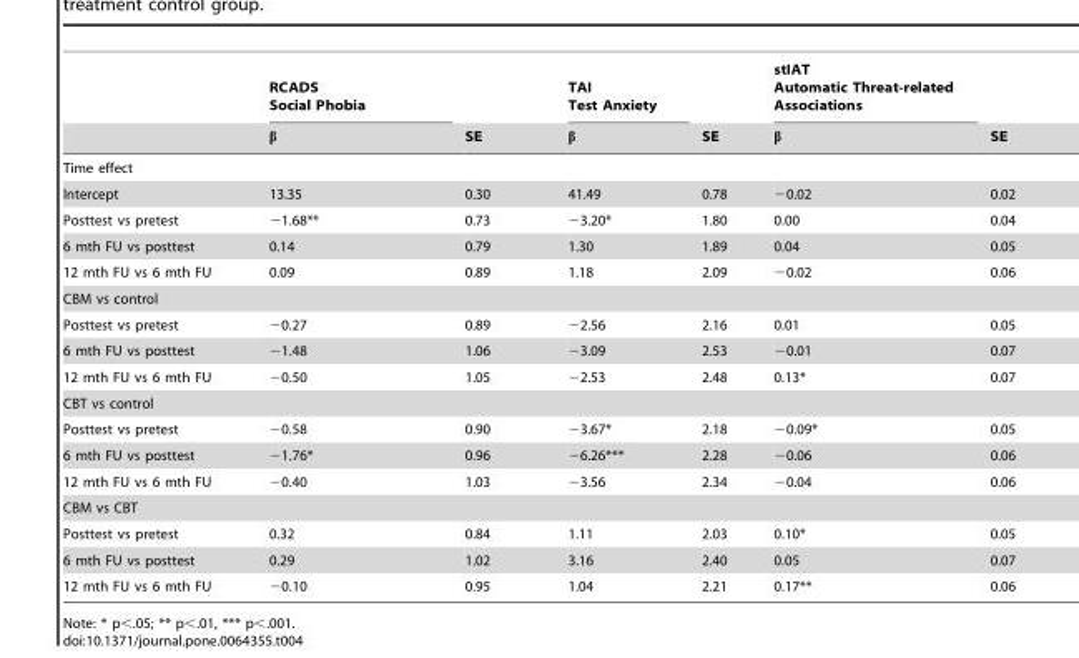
<table><thead><tr><td rowspan="2"></td><td rowspan="2">RCADS Social Phobia β</td><td rowspan="2">SE</td><td rowspan="2">TAI Test Anxiety β</td><td rowspan="2">SE</td><td rowspan="2">stIAT Automatic Threat-related Associations β</td><td rowspan="2">SE</td></tr><tr></tr></thead><tbody><tr><td colspan="7">Time effect</td></tr><tr><td>Intercept</td><td>13.35</td><td>0.30</td><td>41.49</td><td>0.78</td><td>−0.02</td><td>0.02</td></tr><tr><td>Posttest vs pretest</td><td>−1.68**</td><td>0.73</td><td>−3.20*</td><td>1.80</td><td>0.00</td><td>0.04</td></tr><tr><td>6 mth FU vs posttest</td><td>0.14</td><td>0.79</td><td>1.30</td><td>1.89</td><td>0.04</td><td>0.05</td></tr><tr><td>12 mth FU vs 6 mth FU</td><td>0.09</td><td>0.89</td><td>1.18</td><td>2.09</td><td>−0.02</td><td>0.06</td></tr><tr><td colspan="7">CBM vs control</td></tr><tr><td>Posttest vs pretest</td><td>−0.27</td><td>0.89</td><td>−2.56</td><td>2.16</td><td>0.01</td><td>0.05</td></tr><tr><td>6 mth FU vs posttest</td><td>−1.48</td><td>1.06</td><td>−3.09</td><td>2.53</td><td>−0.01</td><td>0.07</td></tr><tr><td>12 mth FU vs 6 mth FU</td><td>−0.50</td><td>1.05</td><td>−2.53</td><td>2.48</td><td>0.13*</td><td>0.07</td></tr><tr><td colspan="7">CBT vs control</td></tr><tr><td>Posttest vs pretest</td><td>−0.58</td><td>0.90</td><td>−3.67*</td><td>2.18</td><td>−0.09*</td><td>0.05</td></tr><tr><td>6 mth FU vs posttest</td><td>−1.76*</td><td>0.96</td><td>−6.26***</td><td>2.28</td><td>−0.06</td><td>0.06</td></tr><tr><td>12 mth FU vs 6 mth FU</td><td>−0.40</td><td>1.03</td><td>−3.56</td><td>2.34</td><td>−0.04</td><td>0.06</td></tr><tr><td colspan="7">CBM vs CBT</td></tr><tr><td>Posttest vs pretest</td><td>0.32</td><td>0.84</td><td>1.11</td><td>2.03</td><td>0.10*</td><td>0.05</td></tr><tr><td>6 mth FU vs posttest</td><td>0.29</td><td>1.02</td><td>3.16</td><td>2.40</td><td>0.05</td><td>0.07</td></tr><tr><td>12 mth FU vs 6 mth FU</td><td>−0.10</td><td>0.95</td><td>1.04</td><td>2.21</td><td>0.17**</td><td>0.06</td></tr></tbody></table>